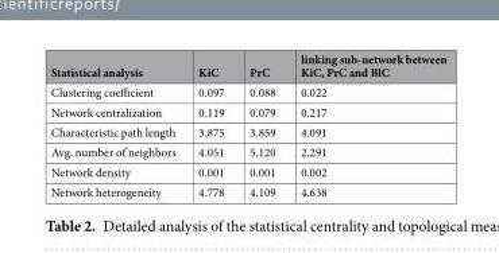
<table><thead><tr><td>Statistical analysis</td><td>KiC</td><td>PrC</td><td>linking sub-network between KiC, PrC and BlC</td></tr></thead><tbody><tr><td>Clustering coefficient</td><td>0.097</td><td>0.088</td><td>0.022</td></tr><tr><td>Network centralization</td><td>0.119</td><td>0.079</td><td>0.217</td></tr><tr><td>Characteristic path length</td><td>3.875</td><td>3.859</td><td>4.091</td></tr><tr><td>Avg. number of neighbors</td><td>4.051</td><td>5.120</td><td>2.291</td></tr><tr><td>Network density</td><td>0.001</td><td>0.001</td><td>0.002</td></tr><tr><td>Network heterogeneity</td><td>4.778</td><td>4.109</td><td>4.638</td></tr></tbody></table>